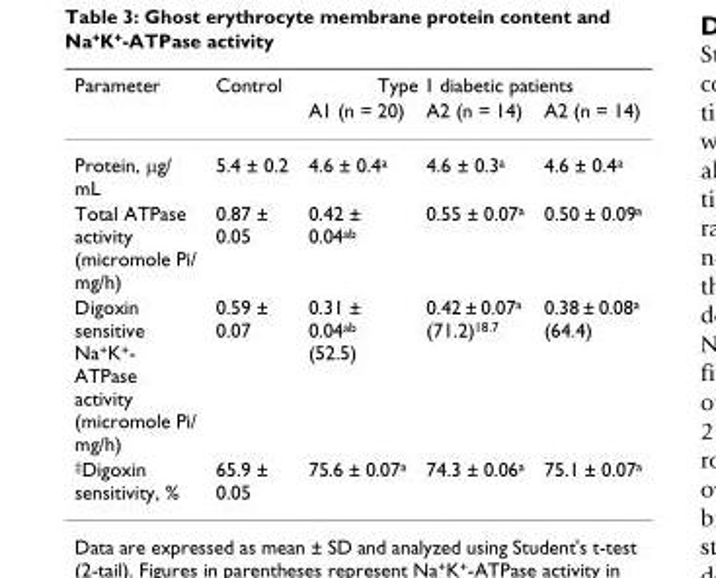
<table><thead><tr><td rowspan="2">Parameter</td><td rowspan="2">Control</td><td colspan="3">Type 1 diabetic patients</td></tr><tr><td>A1 (n = 20)</td><td>A2 (n = 14)</td><td>A2 (n = 14)</td></tr></thead><tbody><tr><td>Protein, µg/ mL</td><td>5.4 ± 0.2</td><td>4.6 ± 0.4<sup>a</sup></td><td>4.6 ± 0.3<sup>a</sup></td><td>4.6 ± 0.4<sup>a</sup></td></tr><tr><td>Total ATPase activity (micromole Pi/ mg/h)</td><td>0.87 ± 0.05</td><td>0.42 ± 0.04<sup>ab</sup></td><td>0.55 ± 0.07<sup>a</sup></td><td>0.50 ± 0.09<sup>a</sup></td></tr><tr><td>Digoxin sensitive Na<sup>+</sup>K<sup>+</sup>- ATPase activity (micromole Pi/ mg/h)</td><td>0.59 ± 0.07</td><td>0.31 ± 0.04<sup>ab</sup> (52.5)</td><td>0.42 ± 0.07<sup>a</sup> (71.2)<sup>18.7</sup></td><td>0.38 ± 0.08<sup>a</sup> (64.4)</td></tr><tr><td><sup>‡</sup>Digoxin sensitivity, %</td><td>65.9 ± 0.05</td><td>75.6 ± 0.07<sup>a</sup></td><td>74.3 ± 0.06<sup>a</sup></td><td>75.1 ± 0.07<sup>a</sup></td></tr></tbody></table>